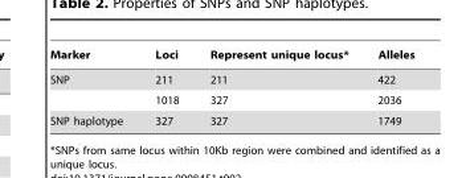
<table><thead><tr><td>Marker</td><td>Loci</td><td>Represent unique locus*</td><td>Alleles</td></tr></thead><tbody><tr><td rowspan="2">SNP</td><td>211</td><td>211</td><td>422</td></tr><tr><td>1018</td><td>327</td><td>2036</td></tr><tr><td>SNP haplotype</td><td>327</td><td>327</td><td>1749</td></tr></tbody></table>